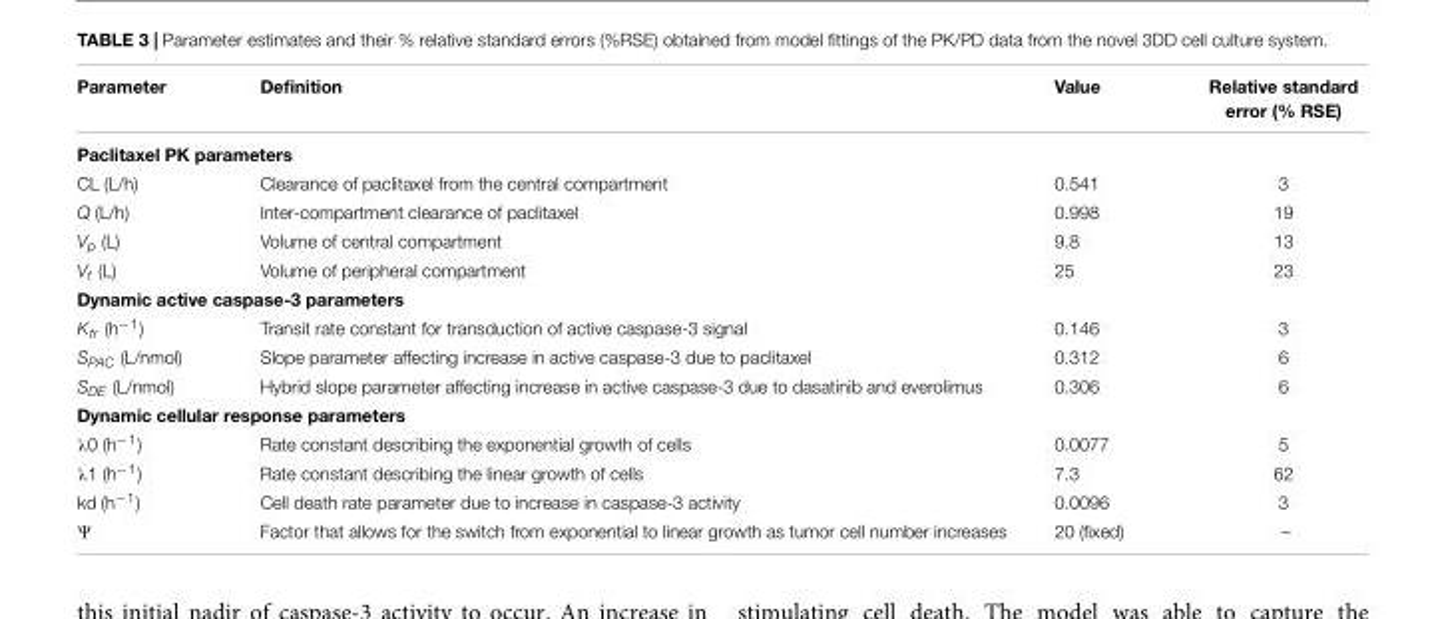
<table><thead><tr><td>Parameter</td><td>Definition</td><td>Value</td><td>Relative standard error (% RSE)</td></tr></thead><tbody><tr><td colspan="4">Paclitaxel PK parameters</td></tr><tr><td>CL (L/h)</td><td>Clearance of paclitaxel from the central compartment</td><td>0.541</td><td>3</td></tr><tr><td>Q (L/h)</td><td>Inter-compartment clearance of paclitaxel</td><td>0.998</td><td>19</td></tr><tr><td>V<sub>p</sub> (L)</td><td>Volume of central compartment</td><td>9.8</td><td>13</td></tr><tr><td>V<sub>t</sub> (L)</td><td>Volume of peripheral compartment</td><td>25</td><td>23</td></tr><tr><td colspan="4">Dynamic active caspase-3 parameters</td></tr><tr><td>K<sub>tr</sub> (h<sup>−1</sup>)</td><td>Transit rate constant for transduction of active caspase-3 signal</td><td>0.146</td><td>3</td></tr><tr><td>S<sub>PAC</sub> (L/nmol)</td><td>Slope parameter affecting increase in active caspase-3 due to paclitaxel</td><td>0.312</td><td>6</td></tr><tr><td>S<sub>DE</sub> (L/nmol)</td><td>Hybrid slope parameter affecting increase in active caspase-3 due to dasatinib and everolimus</td><td>0.306</td><td>6</td></tr><tr><td colspan="4">Dynamic cellular response parameters</td></tr><tr><td>λ0 (h−1)</td><td>Rate constant describing the exponential growth of cells</td><td>0.0077</td><td>5</td></tr><tr><td>λ1 (h−1)</td><td>Rate constant describing the linear growth of cells</td><td>7.3</td><td>62</td></tr><tr><td>kd (h<sup>−1</sup>)</td><td>Cell death rate parameter due to increase in caspase-3 activity</td><td>0.0096</td><td>3</td></tr><tr><td>Ψ</td><td>Factor that allows for the switch from exponential to linear growth as tumor cell number increases</td><td>20 (fixed)</td><td>–</td></tr></tbody></table>